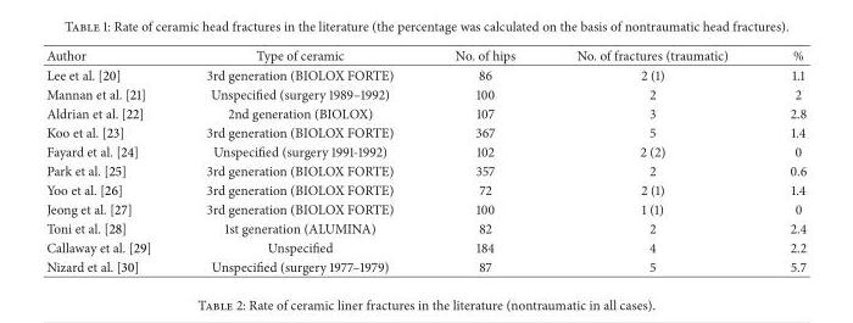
<table><thead><tr><td>Author</td><td>Type of ceramic</td><td>No. of hips</td><td>No. of fractures (traumatic)</td><td>%</td></tr></thead><tbody><tr><td>Lee et al. [20]</td><td>3rd generation (BIOLOX FORTE)</td><td>86</td><td>2 (1)</td><td>1.1</td></tr><tr><td>Mannan et al. [21]</td><td>Unspecified (surgery 1989–1992)</td><td>100</td><td>2</td><td>2</td></tr><tr><td>Aldrian et al. [22]</td><td>2nd generation (BIOLOX)</td><td>107</td><td>3</td><td>2.8</td></tr><tr><td>Koo et al. [23]</td><td>3rd generation (BIOLOX FORTE)</td><td>367</td><td>5</td><td>1.4</td></tr><tr><td>Fayard et al. [24]</td><td>Unspecified (surgery 1991-1992)</td><td>102</td><td>2 (2)</td><td>0</td></tr><tr><td>Park et al. [25]</td><td>3rd generation (BIOLOX FORTE)</td><td>357</td><td>2</td><td>0.6</td></tr><tr><td>Yoo et al. [26]</td><td>3rd generation (BIOLOX FORTE)</td><td>72</td><td>2 (1)</td><td>1.4</td></tr><tr><td>Jeong et al. [27]</td><td>3rd generation (BIOLOX FORTE)</td><td>100</td><td>1 (1)</td><td>0</td></tr><tr><td>Toni et al. [28]</td><td>1st generation (ALUMINA)</td><td>82</td><td>2</td><td>2.4</td></tr><tr><td>Callaway et al. [29]</td><td>Unspecified</td><td>184</td><td>4</td><td>2.2</td></tr><tr><td>Nizard et al. [30]</td><td>Unspecified (surgery 1977–1979)</td><td>87</td><td>5</td><td>5.7</td></tr></tbody></table>